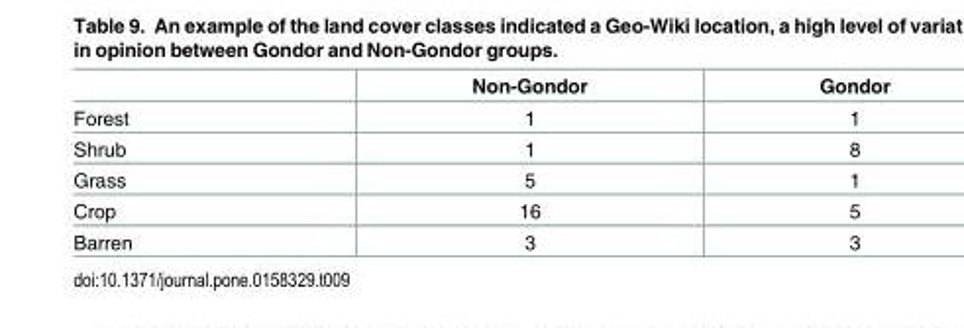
<table><thead><tr><td></td><td>Non-Gondor</td><td>Gondor</td></tr></thead><tbody><tr><td>Forest</td><td>1</td><td>1</td></tr><tr><td>Shrub</td><td>1</td><td>8</td></tr><tr><td>Grass</td><td>5</td><td>1</td></tr><tr><td>Crop</td><td>16</td><td>5</td></tr><tr><td>Barren</td><td>3</td><td>3</td></tr></tbody></table>